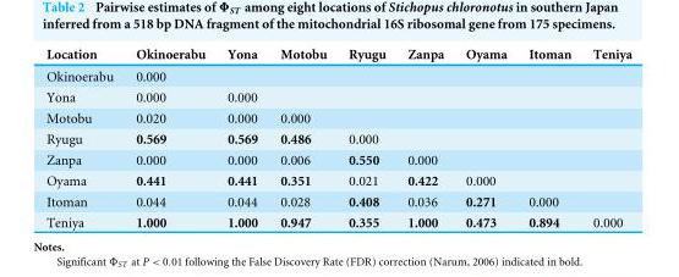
<table><thead><tr><td>Location</td><td>Okinoerabu</td><td>Yona</td><td>Motobu</td><td>Ryugu</td><td>Zanpa</td><td>Oyama</td><td>Itoman</td><td>Teniya</td></tr></thead><tbody><tr><td>Okinoerabu</td><td>0.000</td><td></td><td></td><td></td><td></td><td></td><td></td><td></td></tr><tr><td>Yona</td><td>0.000</td><td>0.000</td><td></td><td></td><td></td><td></td><td></td><td></td></tr><tr><td>Motobu</td><td>0.020</td><td>0.000</td><td>0.000</td><td></td><td></td><td></td><td></td><td></td></tr><tr><td>Ryugu</td><td>0.569</td><td>0.569</td><td>0.486</td><td>0.000</td><td></td><td></td><td></td><td></td></tr><tr><td>Zanpa</td><td>0.000</td><td>0.000</td><td>0.006</td><td>0.550</td><td>0.000</td><td></td><td></td><td></td></tr><tr><td>Oyama</td><td>0.441</td><td>0.441</td><td>0.351</td><td>0.021</td><td>0.422</td><td>0.000</td><td></td><td></td></tr><tr><td>Itoman</td><td>0.044</td><td>0.044</td><td>0.028</td><td>0.408</td><td>0.036</td><td>0.271</td><td>0.000</td><td></td></tr><tr><td>Teniya</td><td>1.000</td><td>1.000</td><td>0.947</td><td>0.355</td><td>1.000</td><td>0.473</td><td>0.894</td><td>0.000</td></tr></tbody></table>